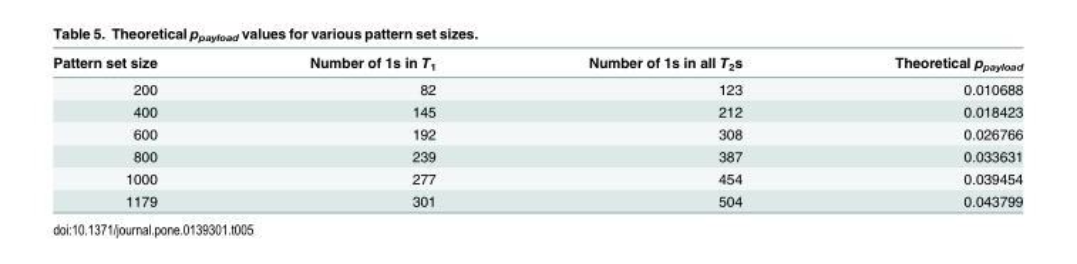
<table><thead><tr><td>Pattern set size</td><td>Number of 1s in T<sub>1</sub></td><td>Number of 1s in all T<sub>2</sub>s</td><td>Theoretical p<sub>payload</sub></td></tr></thead><tbody><tr><td>200</td><td>82</td><td>123</td><td>0.010688</td></tr><tr><td>400</td><td>145</td><td>212</td><td>0.018423</td></tr><tr><td>600</td><td>192</td><td>308</td><td>0.026766</td></tr><tr><td>800</td><td>239</td><td>387</td><td>0.033631</td></tr><tr><td>1000</td><td>277</td><td>454</td><td>0.039454</td></tr><tr><td>1179</td><td>301</td><td>504</td><td>0.043799</td></tr></tbody></table>